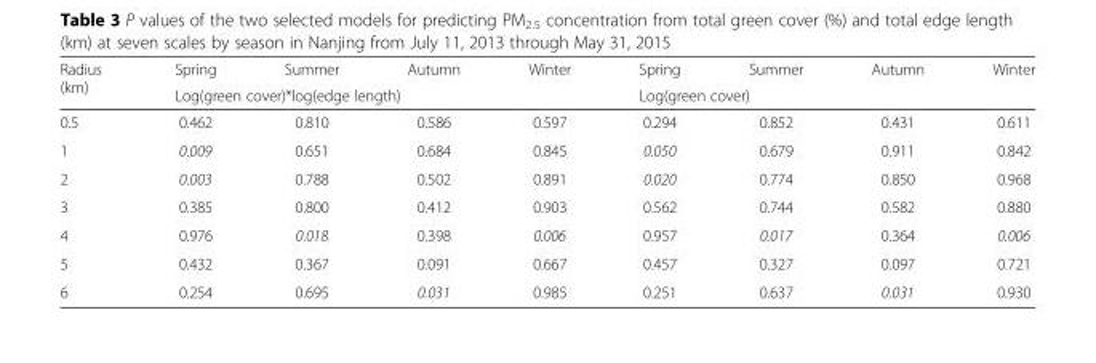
<table><thead><tr><td rowspan="2">Radius (km)</td><td>Spring</td><td>Summer</td><td>Autumn</td><td>Winter</td><td>Spring</td><td>Summer</td><td>Autumn</td><td>Winter</td></tr><tr><td colspan="4">Log(green cover)*log(edge length)</td><td colspan="4">Log(green cover)</td></tr></thead><tbody><tr><td>0.5</td><td>0.462</td><td>0.810</td><td>0.586</td><td>0.597</td><td>0.294</td><td>0.852</td><td>0.431</td><td>0.611</td></tr><tr><td>1</td><td>0.009</td><td>0.651</td><td>0.684</td><td>0.845</td><td>0.050</td><td>0.679</td><td>0.911</td><td>0.842</td></tr><tr><td>2</td><td>0.003</td><td>0.788</td><td>0.502</td><td>0.891</td><td>0.020</td><td>0.774</td><td>0.850</td><td>0.968</td></tr><tr><td>3</td><td>0.385</td><td>0.800</td><td>0.412</td><td>0.903</td><td>0.562</td><td>0.744</td><td>0.582</td><td>0.880</td></tr><tr><td>4</td><td>0.976</td><td>0.018</td><td>0.398</td><td>0.006</td><td>0.957</td><td>0.017</td><td>0.364</td><td>0.006</td></tr><tr><td>5</td><td>0.432</td><td>0.367</td><td>0.091</td><td>0.667</td><td>0.457</td><td>0.327</td><td>0.097</td><td>0.721</td></tr><tr><td>6</td><td>0.254</td><td>0.695</td><td>0.031</td><td>0.985</td><td>0.251</td><td>0.637</td><td>0.031</td><td>0.930</td></tr></tbody></table>